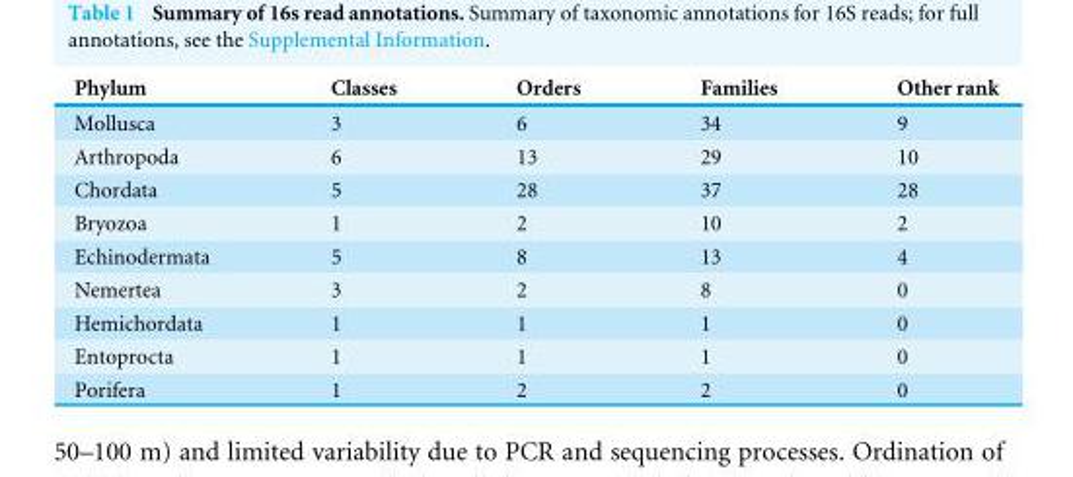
<table><thead><tr><td>Phylum</td><td>Classes</td><td>Orders</td><td>Families</td><td>Other rank</td></tr></thead><tbody><tr><td>Mollusca</td><td>3</td><td>6</td><td>34</td><td>9</td></tr><tr><td>Arthropoda</td><td>6</td><td>13</td><td>29</td><td>10</td></tr><tr><td>Chordata</td><td>5</td><td>28</td><td>37</td><td>28</td></tr><tr><td>Bryozoa</td><td>1</td><td>2</td><td>10</td><td>2</td></tr><tr><td>Echinodermata</td><td>5</td><td>8</td><td>13</td><td>4</td></tr><tr><td>Nemertea</td><td>3</td><td>2</td><td>8</td><td>0</td></tr><tr><td>Hemichordata</td><td>1</td><td>1</td><td>1</td><td>0</td></tr><tr><td>Entoprocta</td><td>1</td><td>1</td><td>1</td><td>0</td></tr><tr><td>Porifera</td><td>1</td><td>2</td><td>2</td><td>0</td></tr></tbody></table>